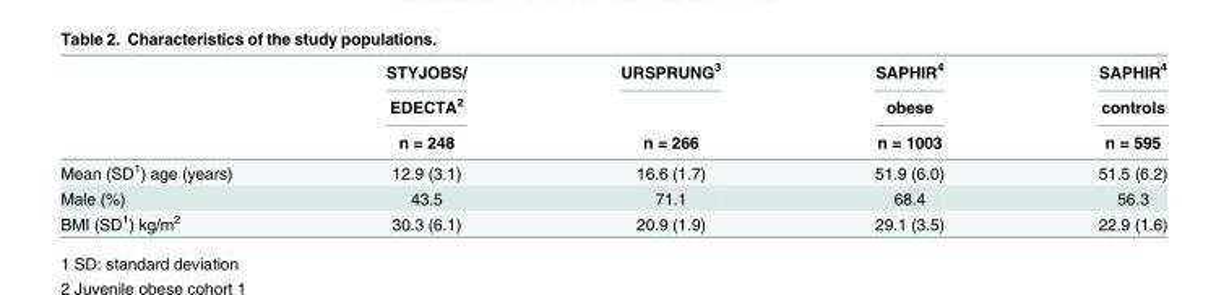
<table><thead><tr><td rowspan="3"></td><td rowspan="3">STYJOBS/ EDECTA<sup>2</sup> n = 248</td><td rowspan="3">URSPRUNG<sup>3</sup> n = 266</td><td rowspan="3">SAPHIR<sup>4</sup> obese n = 1003</td><td rowspan="3">SAPHIR<sup>4</sup> controls n = 595</td></tr><tr></tr><tr></tr></thead><tbody><tr><td>Mean (SD<sup>1</sup>) age (years)</td><td>12.9 (3.1)</td><td>16.6 (1.7)</td><td>51.9 (6.0)</td><td>51.5 (6.2)</td></tr><tr><td>Male (%)</td><td>43.5</td><td>71.1</td><td>68.4</td><td>56.3</td></tr><tr><td>BMI (SD<sup>1</sup>) kg/m<sup>2</sup></td><td>30.3 (6.1)</td><td>20.9 (1.9)</td><td>29.1 (3.5)</td><td>22.9 (1.6)</td></tr></tbody></table>